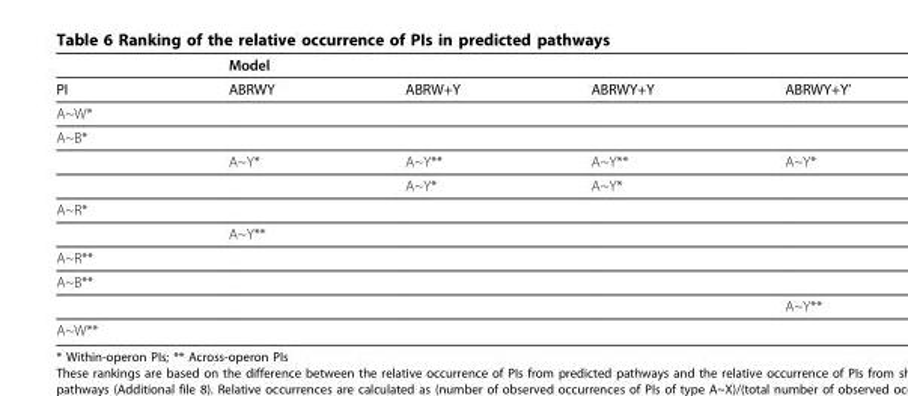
<table><thead><tr><td rowspan="2">PI</td><td colspan="4">Model</td></tr><tr><td>ABRWY</td><td>ABRW+Y</td><td>ABRWY+Y</td><td>ABRWY+Y’</td></tr></thead><tbody><tr><td colspan="5">A~W*</td></tr><tr><td colspan="5">A~B*</td></tr><tr><td></td><td>A~Y*</td><td>A~Y**</td><td>A~Y**</td><td>A~Y*</td></tr><tr><td></td><td></td><td>A~Y*</td><td>A~Y*</td><td></td></tr><tr><td colspan="5">A~R*</td></tr><tr><td></td><td>A~Y**</td><td></td><td></td><td></td></tr><tr><td colspan="5">A~R**</td></tr><tr><td colspan="5">A~B**</td></tr><tr><td></td><td></td><td></td><td></td><td>A~Y**</td></tr><tr><td>A~W**</td><td></td><td></td><td></td><td></td></tr></tbody></table>